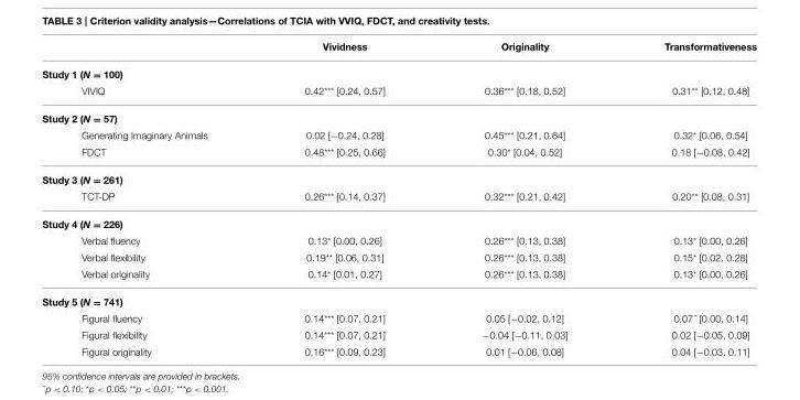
<table><thead><tr><td></td><td>Vividness</td><td>Originality</td><td>Transformativeness</td></tr></thead><tbody><tr><td colspan="4">Study 1 (N = 100)</td></tr><tr><td>VIVIQ</td><td>0.42*** [0.24, 0.57]</td><td>0.36*** [0.18, 0.52]</td><td>0.31** [0.12, 0.48]</td></tr><tr><td colspan="4">Study 2 (N = 57)</td></tr><tr><td>Generating Imaginary Animals</td><td>0.02 [−0.24, 0.28]</td><td>0.45*** [0.21, 0.64]</td><td>0.32* [0.06, 0.54]</td></tr><tr><td>FDCT</td><td>0.48*** [0.25, 0.66]</td><td>0.30* [0.04, 0.52]</td><td>0.18 [−0.08, 0.42]</td></tr><tr><td colspan="4">Study 3 (N = 261)</td></tr><tr><td>TCT-DP</td><td>0.26*** [0.14, 0.37]</td><td>0.32*** [0.21, 0.42]</td><td>0.20** [0.08, 0.31]</td></tr><tr><td colspan="4">Study 4 (N = 226)</td></tr><tr><td>Verbal fluency</td><td>0.13* [0.00, 0.26]</td><td>0.26*** [0.13, 0.38]</td><td>0.13* [0.00, 0.26]</td></tr><tr><td>Verbal flexibility</td><td>0.19** [0.06, 0.31]</td><td>0.26*** [0.13, 0.38]</td><td>0.15* [0.02, 0.28]</td></tr><tr><td>Verbal originality</td><td>0.14* [0.01, 0.27]</td><td>0.26*** [0.13, 0.38]</td><td>0.13* [0.00, 0.26]</td></tr><tr><td colspan="4">Study 5 (N = 741)</td></tr><tr><td>Figural fluency</td><td>0.14*** [0.07, 0.21]</td><td>0.05 [−0.02, 0.12]</td><td>0.07 ˆ [0.00, 0.14]</td></tr><tr><td>Figural flexibility</td><td>0.14*** [0.07, 0.21]</td><td>−0.04 [−0.11, 0.03]</td><td>0.02 [−0.05, 0.09]</td></tr><tr><td>Figural originality</td><td>0.16*** [0.09, 0.23]</td><td>0.01 [−0.06, 0.08]</td><td>0.04 [−0.03, 0.11]</td></tr></tbody></table>